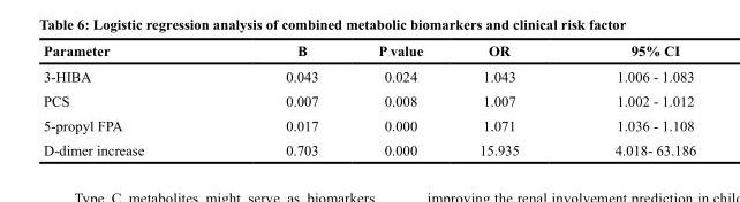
<table><thead><tr><td>Parameter</td><td>B</td><td>P value</td><td>OR</td><td>95% CI</td></tr></thead><tbody><tr><td>3-HIBA</td><td>0.043</td><td>0.024</td><td>1.043</td><td>1.006 - 1.083</td></tr><tr><td>PCS</td><td>0.007</td><td>0.008</td><td>1.007</td><td>1.002 - 1.012</td></tr><tr><td>5-propyl FPA</td><td>0.017</td><td>0.000</td><td>1.071</td><td>1.036 - 1.108</td></tr><tr><td>D-dimer increase</td><td>0.703</td><td>0.000</td><td>15.935</td><td>4.018- 63.186</td></tr></tbody></table>